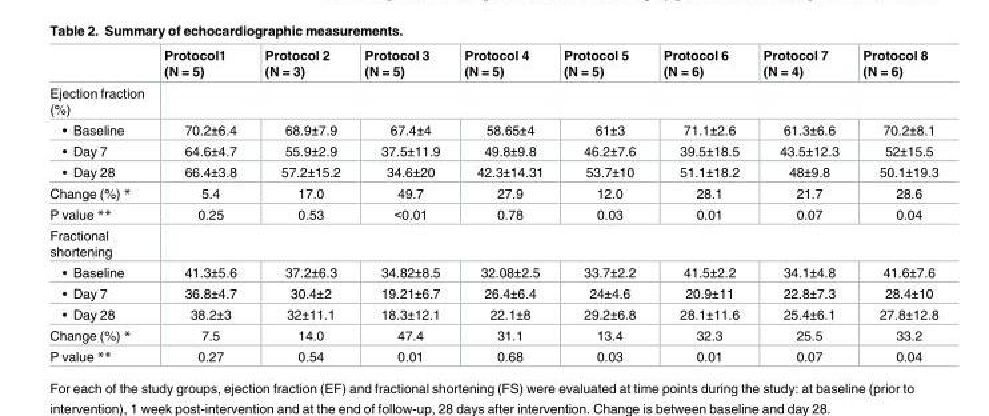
<table><thead><tr><td></td><td>Protocol1 (N = 5)</td><td>Protocol 2 (N = 3)</td><td>Protocol 3 (N = 5)</td><td>Protocol 4 (N = 5)</td><td>Protocol 5 (N = 5)</td><td>Protocol 6 (N = 6)</td><td>Protocol 7 (N = 4)</td><td>Protocol 8 (N = 6)</td></tr></thead><tbody><tr><td colspan="9">Ejection fraction (%)</td></tr><tr><td>• Baseline</td><td>70.2±6.4</td><td>68.9±7.9</td><td>67.4±4</td><td>58.65±4</td><td>61±3</td><td>71.1±2.6</td><td>61.3±6.6</td><td>70.2±8.1</td></tr><tr><td>• Day 7</td><td>64.6±4.7</td><td>55.9±2.9</td><td>37.5±11.9</td><td>49.8±9.8</td><td>46.2±7.6</td><td>39.5±18.5</td><td>43.5±12.3</td><td>52±15.5</td></tr><tr><td>• Day 28</td><td>66.4±3.8</td><td>57.2±15.2</td><td>34.6±20</td><td>42.3±14.31</td><td>53.7±10</td><td>51.1±18.2</td><td>48±9.8</td><td>50.1±19.3</td></tr><tr><td>Change (%) *</td><td>5.4</td><td>17.0</td><td>49.7</td><td>27.9</td><td>12.0</td><td>28.1</td><td>21.7</td><td>28.6</td></tr><tr><td>P value **</td><td>0.25</td><td>0.53</td><td>&lt;0.01</td><td>0.78</td><td>0.03</td><td>0.01</td><td>0.07</td><td>0.04</td></tr><tr><td colspan="9">Fractional shortening</td></tr><tr><td>• Baseline</td><td>41.3±5.6</td><td>37.2±6.3</td><td>34.82±8.5</td><td>32.08±2.5</td><td>33.7±2.2</td><td>41.5±2.2</td><td>34.1±4.8</td><td>41.6±7.6</td></tr><tr><td>• Day 7</td><td>36.8±4.7</td><td>30.4±2</td><td>19.21±6.7</td><td>26.4±6.4</td><td>24±4.6</td><td>20.9±11</td><td>22.8±7.3</td><td>28.4±10</td></tr><tr><td>• Day 28</td><td>38.2±3</td><td>32±11.1</td><td>18.3±12.1</td><td>22.1±8</td><td>29.2±6.8</td><td>28.1±11.6</td><td>25.4±6.1</td><td>27.8±12.8</td></tr><tr><td>Change (%) *</td><td>7.5</td><td>14.0</td><td>47.4</td><td>31.1</td><td>13.4</td><td>32.3</td><td>25.5</td><td>33.2</td></tr><tr><td>P value **</td><td>0.27</td><td>0.54</td><td>0.01</td><td>0.68</td><td>0.03</td><td>0.01</td><td>0.07</td><td>0.04</td></tr></tbody></table>